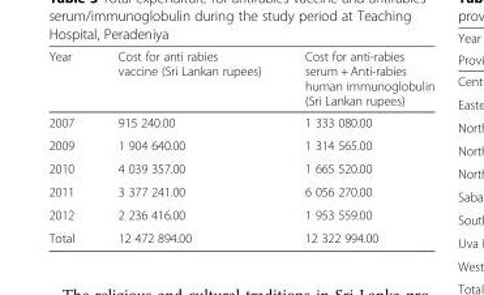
<table><thead><tr><td>Year</td><td>Cost for anti rabies vaccine (Sri Lankan rupees)</td><td>Cost for anti-rabies serum + Anti-rabies human immunoglobulin (Sri Lankan rupees)</td></tr></thead><tbody><tr><td>2007</td><td>915 240.00</td><td>1 333 080.00</td></tr><tr><td>2009</td><td>1 904 640.00</td><td>1 314 565.00</td></tr><tr><td>2010</td><td>4 039 357.00</td><td>1 665 520.00</td></tr><tr><td>2011</td><td>3 377 241.00</td><td>6 056 270.00</td></tr><tr><td>2012</td><td>2 236 416.00</td><td>1 953 559.00</td></tr><tr><td>Total</td><td>12 472 894.00</td><td>12 322 994.00</td></tr></tbody></table>